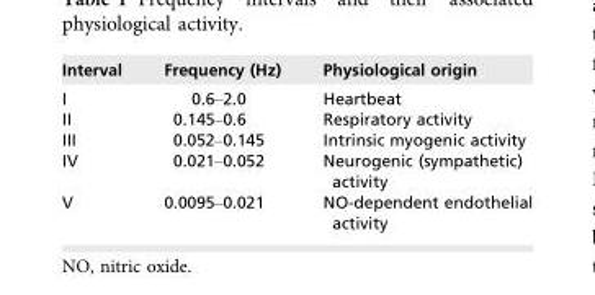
<table><thead><tr><td>Interval</td><td>Frequency (Hz)</td><td>Physiological origin</td></tr></thead><tbody><tr><td>I</td><td>0.6–2.0</td><td>Heartbeat</td></tr><tr><td>II</td><td>0.145–0.6</td><td>Respiratory activity</td></tr><tr><td>III</td><td>0.052–0.145</td><td>Intrinsic myogenic activity</td></tr><tr><td>IV</td><td>0.021–0.052</td><td>Neurogenic (sympathetic) activity</td></tr><tr><td>V</td><td>0.0095–0.021</td><td>NO-dependent endothelial activity</td></tr></tbody></table>